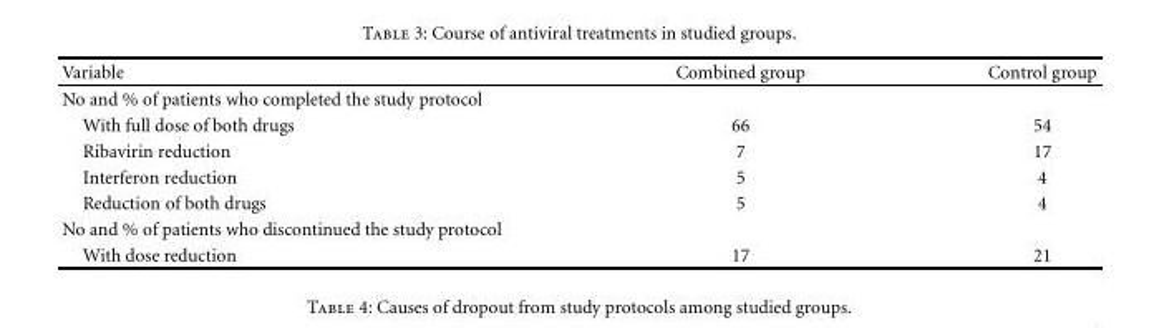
<table><thead><tr><td>Variable</td><td>Combined group</td><td>Control group</td></tr></thead><tbody><tr><td colspan="3">No and % of patients who completed the study protocol</td></tr><tr><td>With full dose of both drugs</td><td>66</td><td>54</td></tr><tr><td>Ribavirin reduction</td><td>7</td><td>17</td></tr><tr><td>Interferon reduction</td><td>5</td><td>4</td></tr><tr><td>Reduction of both drugs</td><td>5</td><td>4</td></tr><tr><td colspan="3">No and % of patients who discontinued the study protocol</td></tr><tr><td>With dose reduction</td><td>17</td><td>21</td></tr></tbody></table>